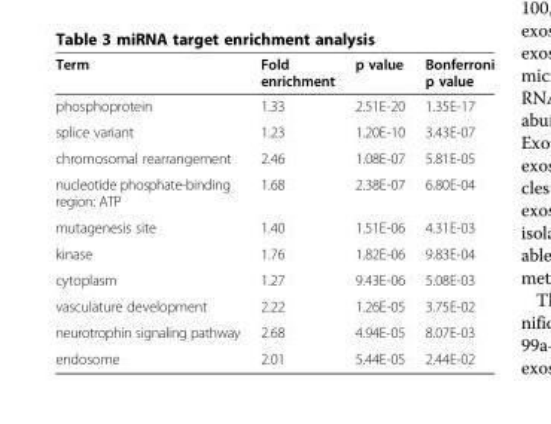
<table><thead><tr><td>Term</td><td>Fold enrichment</td><td>p value</td><td>Bonferroni p value</td></tr></thead><tbody><tr><td>phosphoprotein</td><td>1.33</td><td>2.51E-20</td><td>1.35E-17</td></tr><tr><td>splice variant</td><td>1.23</td><td>1.20E-10</td><td>3.43E-07</td></tr><tr><td>chromosomal rearrangement</td><td>2.46</td><td>1.08E-07</td><td>5.81E-05</td></tr><tr><td>nucleotide phosphate-binding region: ATP</td><td>1.68</td><td>2.38E-07</td><td>6.80E-04</td></tr><tr><td>mutagenesis site</td><td>1.40</td><td>1.51E-06</td><td>4.31E-03</td></tr><tr><td>kinase</td><td>1.76</td><td>1.82E-06</td><td>9.83E-04</td></tr><tr><td>cytoplasm</td><td>1.27</td><td>9.43E-06</td><td>5.08E-03</td></tr><tr><td>vasculature development</td><td>2.22</td><td>1.26E-05</td><td>3.75E-02</td></tr><tr><td>neurotrophin signaling pathway</td><td>2.68</td><td>4.94E-05</td><td>8.07E-03</td></tr><tr><td>endosome</td><td>2.01</td><td>5.44E-05</td><td>2.44E-02</td></tr></tbody></table>